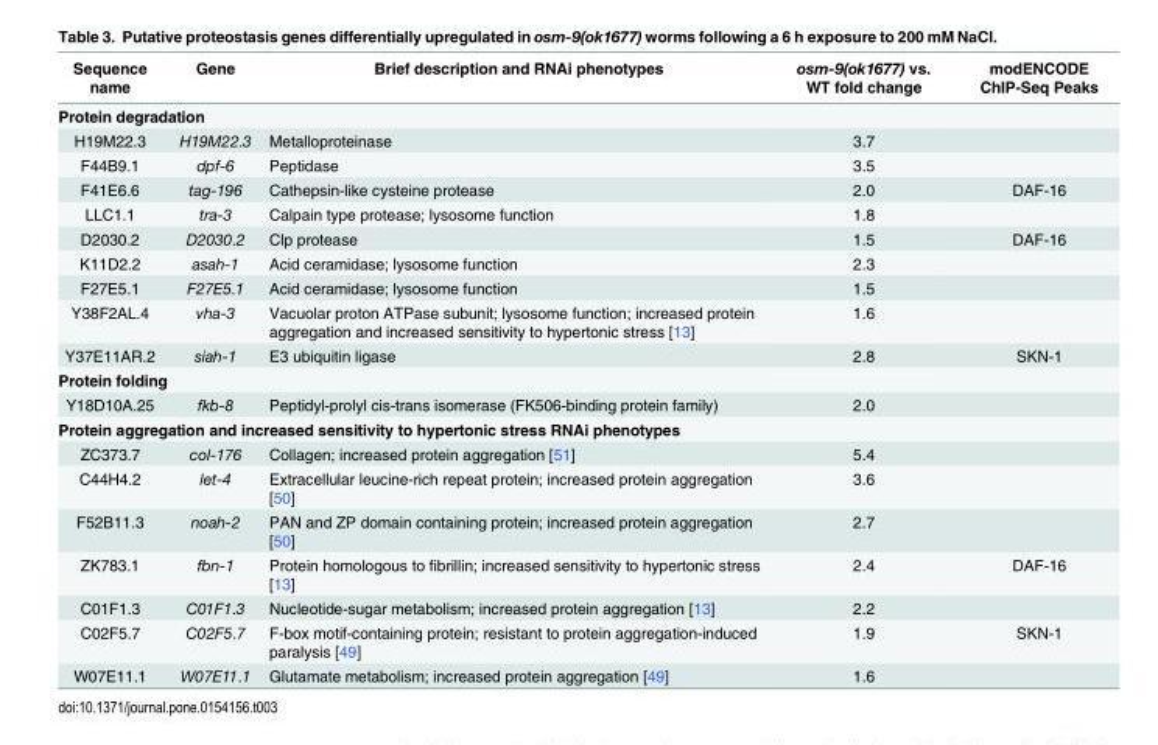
<table><thead><tr><td>Sequence name</td><td>Gene</td><td>Brief description and RNAi phenotypes</td><td>osm-9(ok1677) vs. WT fold change</td><td>modENCODE ChIP-Seq Peaks</td></tr></thead><tbody><tr><td colspan="5">Protein degradation</td></tr><tr><td>H19M22.3</td><td>H19M22.3</td><td>Metalloproteinase</td><td>3.7</td><td></td></tr><tr><td>F44B9.1</td><td>dpf-6</td><td>Peptidase</td><td>3.5</td><td></td></tr><tr><td>F41E6.6</td><td>tag-196</td><td>Cathepsin-like cysteine protease</td><td>2.0</td><td>DAF-16</td></tr><tr><td>LLC1.1</td><td>tra-3</td><td>Calpain type protease; lysosome function</td><td>1.8</td><td></td></tr><tr><td>D2030.2</td><td>D2030.2</td><td>Clp protease</td><td>1.5</td><td>DAF-16</td></tr><tr><td>K11D2.2</td><td>asah-1</td><td>Acid ceramidase; lysosome function</td><td>2.3</td><td></td></tr><tr><td>F27E5.1</td><td>F27E5.1</td><td>Acid ceramidase; lysosome function</td><td>1.5</td><td></td></tr><tr><td>Y38F2AL.4</td><td>vha-3</td><td>Vacuolar proton ATPase subunit; lysosome function; increased protein aggregation and increased sensitivity to hypertonic stress [13]</td><td>1.6</td><td></td></tr><tr><td>Y37E11AR.2</td><td>siah-1</td><td>E3 ubiquitin ligase</td><td>2.8</td><td>SKN-1</td></tr><tr><td colspan="5">Protein folding</td></tr><tr><td>Y18D10A.25</td><td>fkb-8</td><td>Peptidyl-prolyl cis-trans isomerase (FK506-binding protein family)</td><td>2.0</td><td></td></tr><tr><td colspan="5">Protein aggregation and increased sensitivity to hypertonic stress RNAi phenotypes</td></tr><tr><td>ZC373.7</td><td>col-176</td><td>Collagen; increased protein aggregation [51]</td><td>5.4</td><td></td></tr><tr><td>C44H4.2</td><td>let-4</td><td>Extracellular leucine-rich repeat protein; increased protein aggregation [50]</td><td>3.6</td><td></td></tr><tr><td>F52B11.3</td><td>noah-2</td><td>PAN and ZP domain containing protein; increased protein aggregation [50]</td><td>2.7</td><td></td></tr><tr><td>ZK783.1</td><td>fbn-1</td><td>Protein homologous to fibrillin; increased sensitivity to hypertonic stress [13]</td><td>2.4</td><td>DAF-16</td></tr><tr><td>C01F1.3</td><td>C01F1.3</td><td>Nucleotide-sugar metabolism; increased protein aggregation [13]</td><td>2.2</td><td></td></tr><tr><td>C02F5.7</td><td>C02F5.7</td><td>F-box motif-containing protein; resistant to protein aggregation-induced paralysis [49]</td><td>1.9</td><td>SKN-1</td></tr><tr><td>W07E11.1</td><td>W07E11.1</td><td>Glutamate metabolism; increased protein aggregation [49]</td><td>1.6</td><td></td></tr></tbody></table>